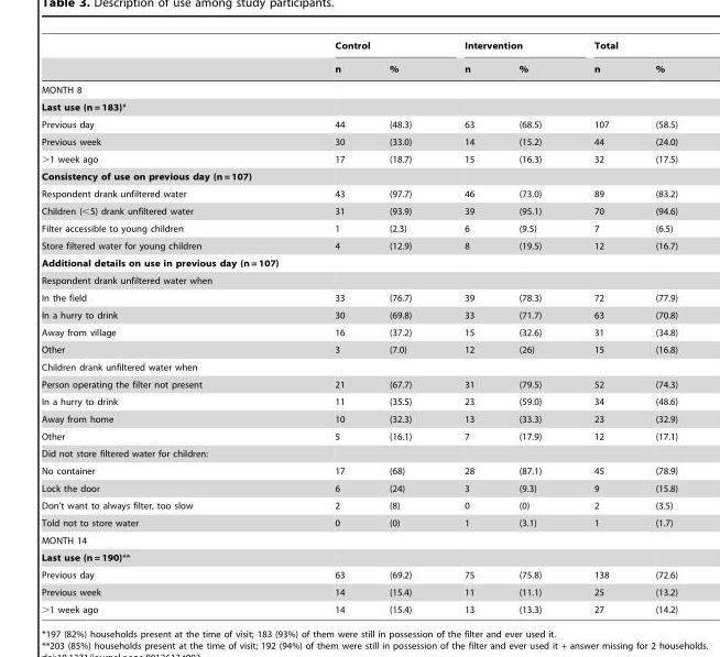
<table><thead><tr><td rowspan="2"></td><td colspan="2">Control</td><td colspan="2">Intervention</td><td colspan="2">Total</td></tr><tr><td>n</td><td>%</td><td>n</td><td>%</td><td>n</td><td>%</td></tr></thead><tbody><tr><td colspan="7">MONTH 8</td></tr><tr><td colspan="7">Last use (n = 183)*</td></tr><tr><td>Previous day</td><td>44</td><td>(48.3)</td><td>63</td><td>(68.5)</td><td>107</td><td>(58.5)</td></tr><tr><td>Previous week</td><td>30</td><td>(33.0)</td><td>14</td><td>(15.2)</td><td>44</td><td>(24.0)</td></tr><tr><td>&gt;1 week ago</td><td>17</td><td>(18.7)</td><td>15</td><td>(16.3)</td><td>32</td><td>(17.5)</td></tr><tr><td colspan="7">Consistency of use on previous day (n = 107)</td></tr><tr><td>Respondent drank unfiltered water</td><td>43</td><td>(97.7)</td><td>46</td><td>(73.0)</td><td>89</td><td>(83.2)</td></tr><tr><td>Children (&lt;5) drank unfiltered water</td><td>31</td><td>(93.9)</td><td>39</td><td>(95.1)</td><td>70</td><td>(94.6)</td></tr><tr><td>Filter accessible to young children</td><td>1</td><td>(2.3)</td><td>6</td><td>(9.5)</td><td>7</td><td>(6.5)</td></tr><tr><td>Store filtered water for young children</td><td>4</td><td>(12.9)</td><td>8</td><td>(19.5)</td><td>12</td><td>(16.7)</td></tr><tr><td colspan="7">Additional details on use in previous day (n = 107)</td></tr><tr><td colspan="7">Respondent drank unfiltered water when</td></tr><tr><td>In the field</td><td>33</td><td>(76.7)</td><td>39</td><td>(78.3)</td><td>72</td><td>(77.9)</td></tr><tr><td>In a hurry to drink</td><td>30</td><td>(69.8)</td><td>33</td><td>(71.7)</td><td>63</td><td>(70.8)</td></tr><tr><td>Away from village</td><td>16</td><td>(37.2)</td><td>15</td><td>(32.6)</td><td>31</td><td>(34.8)</td></tr><tr><td>Other</td><td>3</td><td>(7.0)</td><td>12</td><td>(26)</td><td>15</td><td>(16.8)</td></tr><tr><td colspan="7">Children drank unfiltered water when</td></tr><tr><td>Person operating the filter not present</td><td>21</td><td>(67.7)</td><td>31</td><td>(79.5)</td><td>52</td><td>(74.3)</td></tr><tr><td>In a hurry to drink</td><td>11</td><td>(35.5)</td><td>23</td><td>(59.0)</td><td>34</td><td>(48.6)</td></tr><tr><td>Away from home</td><td>10</td><td>(32.3)</td><td>13</td><td>(33.3)</td><td>23</td><td>(32.9)</td></tr><tr><td>Other</td><td>5</td><td>(16.1)</td><td>7</td><td>(17.9)</td><td>12</td><td>(17.1)</td></tr><tr><td colspan="7">Did not store filtered water for children:</td></tr><tr><td>No container</td><td>17</td><td>(68)</td><td>28</td><td>(87.1)</td><td>45</td><td>(78.9)</td></tr><tr><td>Lock the door</td><td>6</td><td>(24)</td><td>3</td><td>(9.3)</td><td>9</td><td>(15.8)</td></tr><tr><td>Don’t want to always filter, too slow</td><td>2</td><td>(8)</td><td>0</td><td>(0)</td><td>2</td><td>(3.5)</td></tr><tr><td>Told not to store water</td><td>0</td><td>(0)</td><td>1</td><td>(3.1)</td><td>1</td><td>(1.7)</td></tr><tr><td colspan="7">MONTH 14</td></tr><tr><td colspan="7">Last use (n = 190)**</td></tr><tr><td>Previous day</td><td>63</td><td>(69.2)</td><td>75</td><td>(75.8)</td><td>138</td><td>(72.6)</td></tr><tr><td>Previous week</td><td>14</td><td>(15.4)</td><td>11</td><td>(11.1)</td><td>25</td><td>(13.2)</td></tr><tr><td>&gt;1 week ago</td><td>14</td><td>(15.4)</td><td>13</td><td>(13.3)</td><td>27</td><td>(14.2)</td></tr></tbody></table>